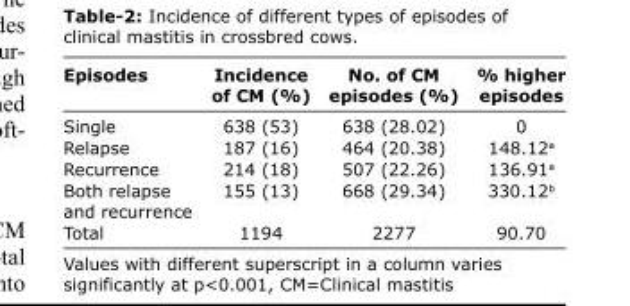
<table><thead><tr><td>Episodes</td><td>Incidence of CM (%)</td><td>No. of CM episodes (%)</td><td>% higher episodes</td></tr></thead><tbody><tr><td>Single</td><td>638 (53)</td><td>638 (28.02)</td><td>0</td></tr><tr><td>Relapse</td><td>187 (16)</td><td>464 (20.38)</td><td>148.12<sup>a</sup></td></tr><tr><td>Recurrence</td><td>214 (18)</td><td>507 (22.26)</td><td>136.91<sup>a</sup></td></tr><tr><td>Both relapse and recurrence</td><td>155 (13)</td><td>668 (29.34)</td><td>330.12<sup>b</sup></td></tr><tr><td>Total</td><td>1194</td><td>2277</td><td>90.70</td></tr></tbody></table>